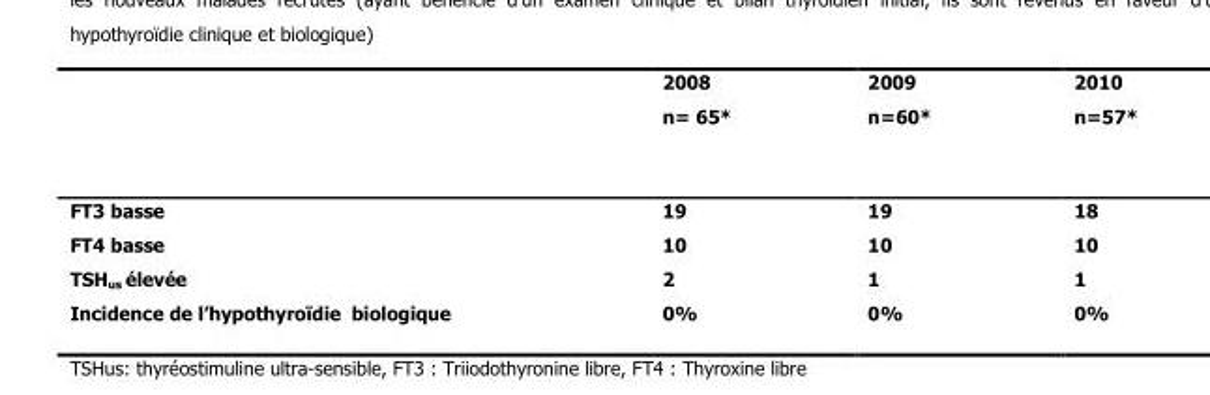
<table><thead><tr><td></td><td>2008 n= 65*</td><td>2009 n=60*</td><td>2010 n=57*</td></tr></thead><tbody><tr><td>FT3 basse</td><td>19</td><td>19</td><td>18</td></tr><tr><td>FT4 basse</td><td>10</td><td>10</td><td>10</td></tr><tr><td>TSH<sub>us</sub> élevée</td><td>2</td><td>1</td><td>1</td></tr><tr><td>Incidence de l’hypothyroïdie biologique</td><td>0%</td><td>0%</td><td>0%</td></tr></tbody></table>